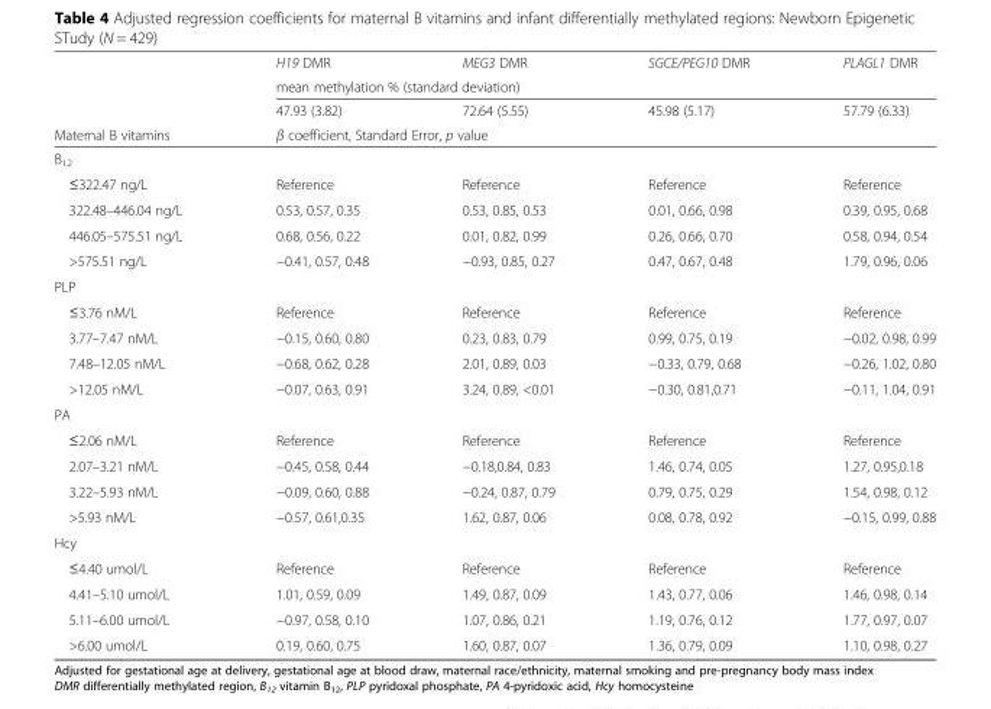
<table><thead><tr><td rowspan="4">Maternal B vitamins</td><td>H19 DMR</td><td>MEG3 DMR</td><td>SGCE/PEG10 DMR</td><td>PLAGL1 DMR</td></tr><tr><td colspan="4">mean methylation % (standard deviation)</td></tr><tr><td>47.93 (3.82)</td><td>72.64 (5.55)</td><td>45.98 (5.17)</td><td>57.79 (6.33)</td></tr><tr><td colspan="4">β coefficient, Standard Error, p value</td></tr></thead><tbody><tr><td colspan="5">B<sub>12</sub></td></tr><tr><td>≤322.47 ng/L</td><td>Reference</td><td>Reference</td><td>Reference</td><td>Reference</td></tr><tr><td>322.48–446.04 ng/L</td><td>0.53, 0.57, 0.35</td><td>0.53, 0.85, 0.53</td><td>0.01, 0.66, 0.98</td><td>0.39, 0.95, 0.68</td></tr><tr><td>446.05–575.51 ng/L</td><td>0.68, 0.56, 0.22</td><td>0.01, 0.82, 0.99</td><td>0.26, 0.66, 0.70</td><td>0.58, 0.94, 0.54</td></tr><tr><td>&gt;575.51 ng/L</td><td>−0.41, 0.57, 0.48</td><td>−0.93, 0.85, 0.27</td><td>0.47, 0.67, 0.48</td><td>1.79, 0.96, 0.06</td></tr><tr><td colspan="5">PLP</td></tr><tr><td>≤3.76 nM/L</td><td>Reference</td><td>Reference</td><td>Reference</td><td>Reference</td></tr><tr><td>3.77–7.47 nM/L</td><td>−0.15, 0.60, 0.80</td><td>0.23, 0.83, 0.79</td><td>0.99, 0.75, 0.19</td><td>−0.02, 0.98, 0.99</td></tr><tr><td>7.48–12.05 nM/L</td><td>−0.68, 0.62, 0.28</td><td>2.01, 0.89, 0.03</td><td>−0.33, 0.79, 0.68</td><td>−0.26, 1.02, 0.80</td></tr><tr><td>&gt;12.05 nM/L</td><td>−0.07, 0.63, 0.91</td><td>3.24, 0.89, &lt;0.01</td><td>−0.30, 0.81,0.71</td><td>−0.11, 1.04, 0.91</td></tr><tr><td colspan="5">PA</td></tr><tr><td>≤2.06 nM/L</td><td>Reference</td><td>Reference</td><td>Reference</td><td>Reference</td></tr><tr><td>2.07–3.21 nM/L</td><td>−0.45, 0.58, 0.44</td><td>−0.18,0.84, 0.83</td><td>1.46, 0.74, 0.05</td><td>1.27, 0.95,0.18</td></tr><tr><td>3.22–5.93 nM/L</td><td>−0.09, 0.60, 0.88</td><td>−0.24, 0.87, 0.79</td><td>0.79, 0.75, 0.29</td><td>1.54, 0.98, 0.12</td></tr><tr><td>&gt;5.93 nM/L</td><td>−0.57, 0.61,0.35</td><td>1.62, 0.87, 0.06</td><td>0.08, 0.78, 0.92</td><td>−0.15, 0.99, 0.88</td></tr><tr><td colspan="5">Hcy</td></tr><tr><td>≤4.40 umol/L</td><td>Reference</td><td>Reference</td><td>Reference</td><td>Reference</td></tr><tr><td>4.41–5.10 umol/L</td><td>1.01, 0.59, 0.09</td><td>1.49, 0.87, 0.09</td><td>1.43, 0.77, 0.06</td><td>1.46, 0.98, 0.14</td></tr><tr><td>5.11–6.00 umol/L</td><td>−0.97, 0.58, 0.10</td><td>1.07, 0.86, 0.21</td><td>1.19, 0.76, 0.12</td><td>1.77, 0.97, 0.07</td></tr><tr><td>&gt;6.00 umol/L</td><td>0.19, 0.60, 0.75</td><td>1.60, 0.87, 0.07</td><td>1.36, 0.79, 0.09</td><td>1.10, 0.98, 0.27</td></tr></tbody></table>